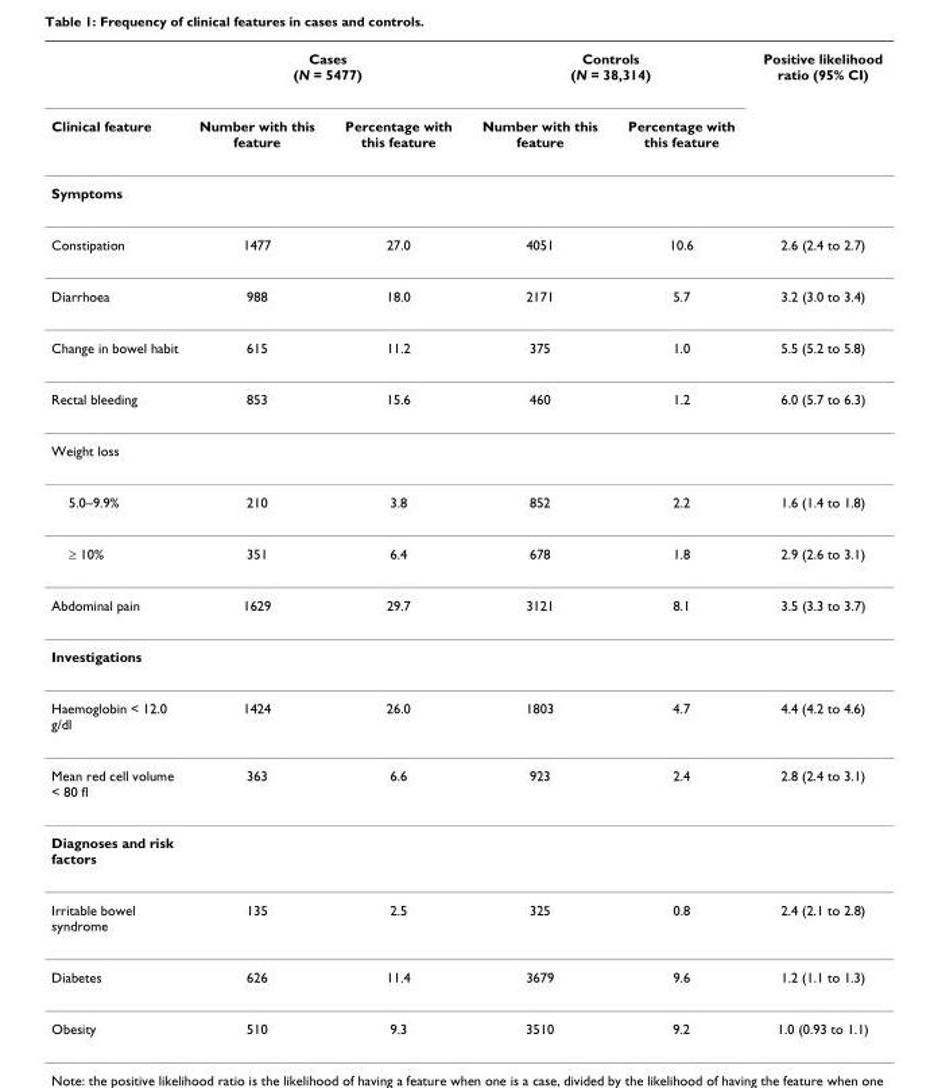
<table><thead><tr><td rowspan="2">Clinical feature</td><td colspan="2">Cases (N = 5477)</td><td colspan="2">Controls (N = 38,314)</td><td rowspan="2">Positive likelihood ratio (95% CI)</td></tr><tr><td>Number with this feature</td><td>Percentage with this feature</td><td>Number with this feature</td><td>Percentage with this feature</td></tr></thead><tbody><tr><td colspan="6">Symptoms</td></tr><tr><td>Constipation</td><td>1477</td><td>27.0</td><td>4051</td><td>10.6</td><td>2.6 (2.4 to 2.7)</td></tr><tr><td>Diarrhoea</td><td>988</td><td>18.0</td><td>2171</td><td>5.7</td><td>3.2 (3.0 to 3.4)</td></tr><tr><td>Change in bowel habit</td><td>615</td><td>11.2</td><td>375</td><td>1.0</td><td>5.5 (5.2 to 5.8)</td></tr><tr><td>Rectal bleeding</td><td>853</td><td>15.6</td><td>460</td><td>1.2</td><td>6.0 (5.7 to 6.3)</td></tr><tr><td colspan="6">Weight loss</td></tr><tr><td>5.0–9.9%</td><td>210</td><td>3.8</td><td>852</td><td>2.2</td><td>1.6 (1.4 to 1.8)</td></tr><tr><td>≥ 10%</td><td>351</td><td>6.4</td><td>678</td><td>1.8</td><td>2.9 (2.6 to 3.1)</td></tr><tr><td>Abdominal pain</td><td>1629</td><td>29.7</td><td>3121</td><td>8.1</td><td>3.5 (3.3 to 3.7)</td></tr><tr><td colspan="6">Investigations</td></tr><tr><td>Haemoglobin &lt; 12.0 g/dl</td><td>1424</td><td>26.0</td><td>1803</td><td>4.7</td><td>4.4 (4.2 to 4.6)</td></tr><tr><td>Mean red cell volume &lt; 80 fl</td><td>363</td><td>6.6</td><td>923</td><td>2.4</td><td>2.8 (2.4 to 3.1)</td></tr><tr><td colspan="6">Diagnoses and risk factors</td></tr><tr><td>Irritable bowel syndrome</td><td>135</td><td>2.5</td><td>325</td><td>0.8</td><td>2.4 (2.1 to 2.8)</td></tr><tr><td>Diabetes</td><td>626</td><td>11.4</td><td>3679</td><td>9.6</td><td>1.2 (1.1 to 1.3)</td></tr><tr><td>Obesity</td><td>510</td><td>9.3</td><td>3510</td><td>9.2</td><td>1.0 (0.93 to 1.1)</td></tr></tbody></table>